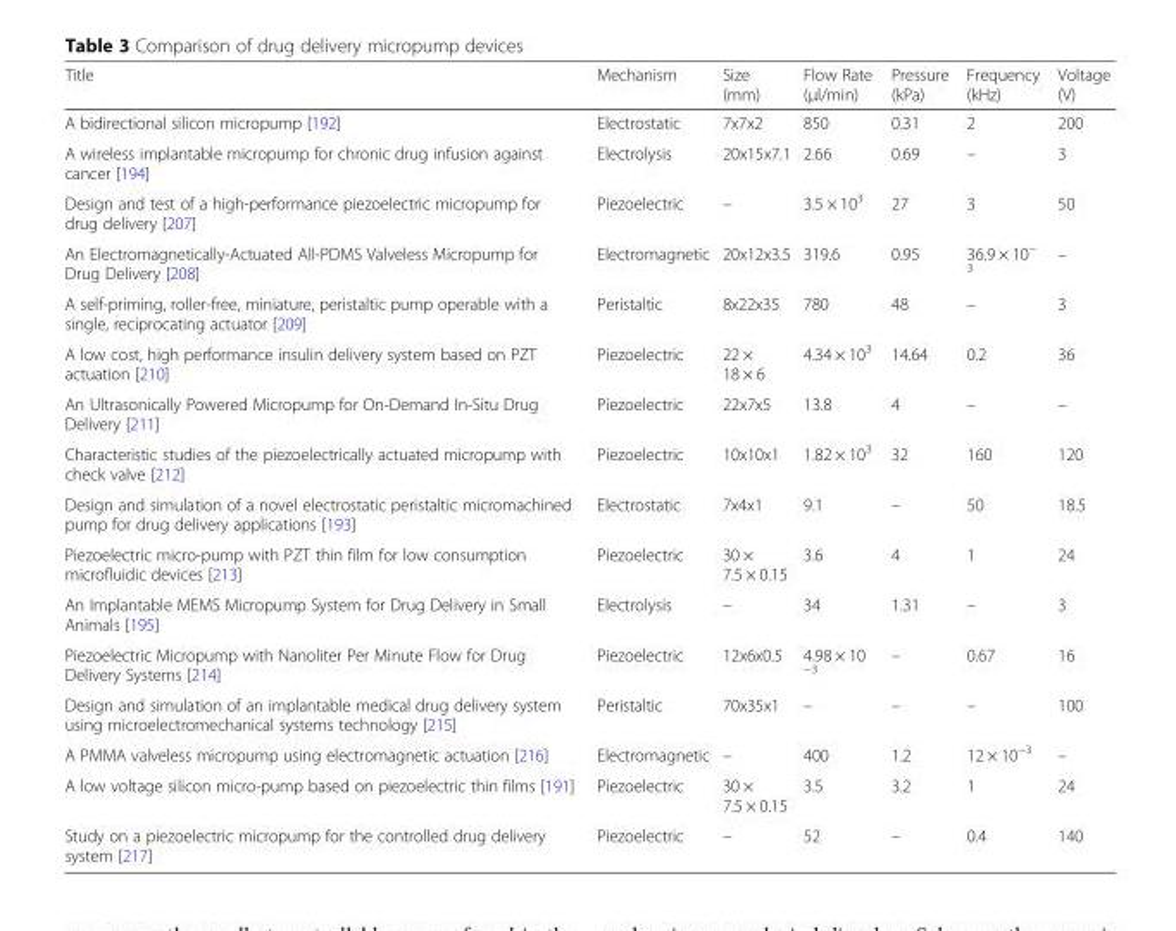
<table><thead><tr><td>Title</td><td>Mechanism</td><td>Size (mm)</td><td>Flow Rate (μl/min)</td><td>Pressure (kPa)</td><td>Frequency (kHz)</td><td>Voltage (V)</td></tr></thead><tbody><tr><td>A bidirectional silicon micropump [192]</td><td>Electrostatic</td><td>7x7x2</td><td>850</td><td>0.31</td><td>2</td><td>200</td></tr><tr><td>A wireless implantable micropump for chronic drug infusion against cancer [194]</td><td>Electrolysis</td><td>20x15x7.1</td><td>2.66</td><td>0.69</td><td>–</td><td>3</td></tr><tr><td>Design and test of a high-performance piezoelectric micropump for drug delivery [207]</td><td>Piezoelectric</td><td>–</td><td>3.5 × 10<sup>3</sup></td><td>27</td><td>3</td><td>50</td></tr><tr><td>An Electromagnetically-Actuated All-PDMS Valveless Micropump for Drug Delivery [208]</td><td>Electromagnetic</td><td>20x12x3.5</td><td>319.6</td><td>0.95</td><td>36.9 × 10<sup>− 3</sup></td><td>–</td></tr><tr><td>A self-priming, roller-free, miniature, peristaltic pump operable with a single, reciprocating actuator [209]</td><td>Peristaltic</td><td>8x22x35</td><td>780</td><td>48</td><td>–</td><td>3</td></tr><tr><td>A low cost, high performance insulin delivery system based on PZT actuation [210]</td><td>Piezoelectric</td><td>22 × 18 × 6</td><td>4.34 × 10<sup>3</sup></td><td>14.64</td><td>0.2</td><td>36</td></tr><tr><td>An Ultrasonically Powered Micropump for On-Demand In-Situ Drug Delivery [211]</td><td>Piezoelectric</td><td>22x7x5</td><td>13.8</td><td>4</td><td>–</td><td>–</td></tr><tr><td>Characteristic studies of the piezoelectrically actuated micropump with check valve [212]</td><td>Piezoelectric</td><td>10x10x1</td><td>1.82 × 10<sup>3</sup></td><td>32</td><td>160</td><td>120</td></tr><tr><td>Design and simulation of a novel electrostatic peristaltic micromachined pump for drug delivery applications [193]</td><td>Electrostatic</td><td>7x4x1</td><td>9.1</td><td>–</td><td>50</td><td>18.5</td></tr><tr><td>Piezoelectric micro-pump with PZT thin film for low consumption microfluidic devices [213]</td><td>Piezoelectric</td><td>30 × 7.5 × 0.15</td><td>3.6</td><td>4</td><td>1</td><td>24</td></tr><tr><td>An Implantable MEMS Micropump System for Drug Delivery in Small Animals [195]</td><td>Electrolysis</td><td>–</td><td>34</td><td>1.31</td><td>–</td><td>3</td></tr><tr><td>Piezoelectric Micropump with Nanoliter Per Minute Flow for Drug Delivery Systems [214]</td><td>Piezoelectric</td><td>12x6x0.5</td><td>4.98 × 10 <sup>−3</sup></td><td>–</td><td>0.67</td><td>16</td></tr><tr><td>Design and simulation of an implantable medical drug delivery system using microelectromechanical systems technology [215]</td><td>Peristaltic</td><td>70x35x1</td><td>–</td><td>–</td><td>–</td><td>100</td></tr><tr><td>A PMMA valveless micropump using electromagnetic actuation [216]</td><td>Electromagnetic</td><td>–</td><td>400</td><td>1.2</td><td>12 × 10<sup>−3</sup></td><td>–</td></tr><tr><td>A low voltage silicon micro-pump based on piezoelectric thin films [191]</td><td>Piezoelectric</td><td>30 × 7.5 × 0.15</td><td>3.5</td><td>3.2</td><td>1</td><td>24</td></tr><tr><td>Study on a piezoelectric micropump for the controlled drug delivery system [217]</td><td>Piezoelectric</td><td>–</td><td>52</td><td>–</td><td>0.4</td><td>140</td></tr></tbody></table>